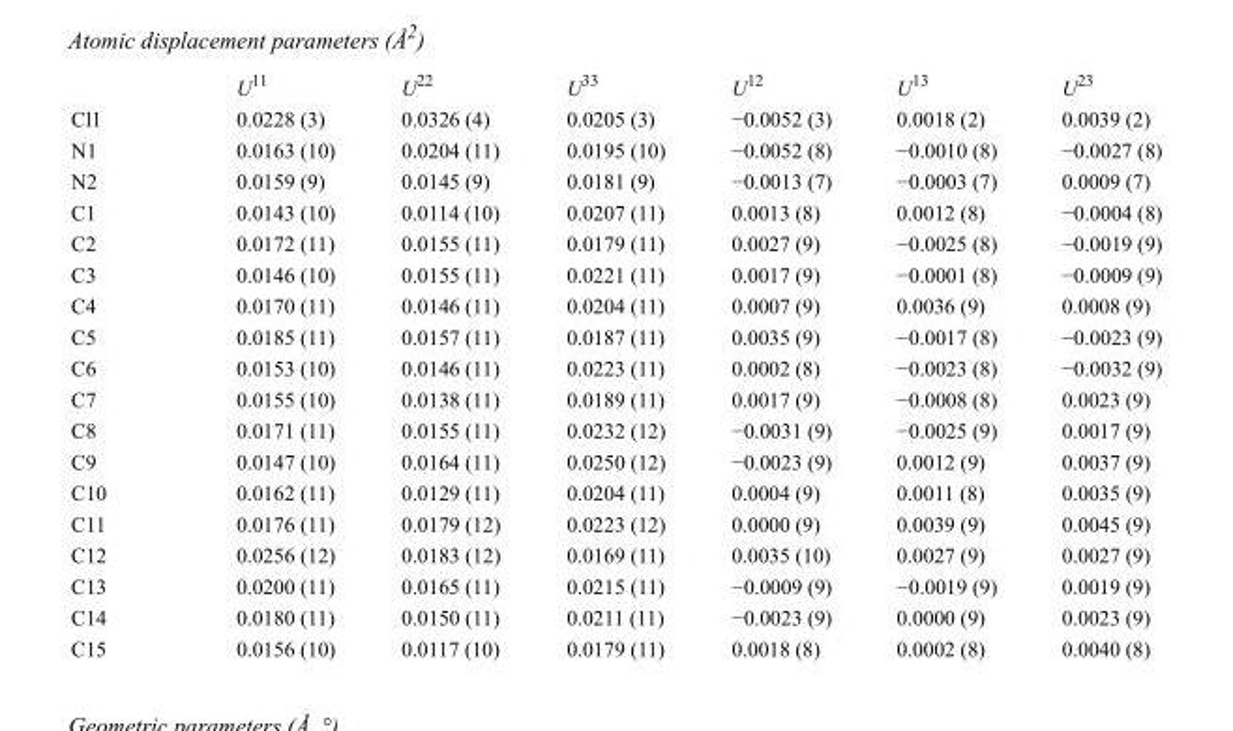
<table><thead><tr><td></td><td>U<sup>11</sup></td><td>U<sup>22</sup></td><td>U<sup>33</sup></td><td>U<sup>12</sup></td><td>U<sup>13</sup></td><td>U<sup>23</sup></td></tr></thead><tbody><tr><td>Cl1</td><td>0.0228 (3)</td><td>0.0326 (4)</td><td>0.0205 (3)</td><td>−0.0052 (3)</td><td>0.0018 (2)</td><td>0.0039 (2)</td></tr><tr><td>N1</td><td>0.0163 (10)</td><td>0.0204 (11)</td><td>0.0195 (10)</td><td>−0.0052 (8)</td><td>−0.0010 (8)</td><td>−0.0027 (8)</td></tr><tr><td>N2</td><td>0.0159 (9)</td><td>0.0145 (9)</td><td>0.0181 (9)</td><td>−0.0013 (7)</td><td>−0.0003 (7)</td><td>0.0009 (7)</td></tr><tr><td>C1</td><td>0.0143 (10)</td><td>0.0114 (10)</td><td>0.0207 (11)</td><td>0.0013 (8)</td><td>0.0012 (8)</td><td>−0.0004 (8)</td></tr><tr><td>C2</td><td>0.0172 (11)</td><td>0.0155 (11)</td><td>0.0179 (11)</td><td>0.0027 (9)</td><td>−0.0025 (8)</td><td>−0.0019 (9)</td></tr><tr><td>C3</td><td>0.0146 (10)</td><td>0.0155 (11)</td><td>0.0221 (11)</td><td>0.0017 (9)</td><td>−0.0001 (8)</td><td>−0.0009 (9)</td></tr><tr><td>C4</td><td>0.0170 (11)</td><td>0.0146 (11)</td><td>0.0204 (11)</td><td>0.0007 (9)</td><td>0.0036 (9)</td><td>0.0008 (9)</td></tr><tr><td>C5</td><td>0.0185 (11)</td><td>0.0157 (11)</td><td>0.0187 (11)</td><td>0.0035 (9)</td><td>−0.0017 (8)</td><td>−0.0023 (9)</td></tr><tr><td>C6</td><td>0.0153 (10)</td><td>0.0146 (11)</td><td>0.0223 (11)</td><td>0.0002 (8)</td><td>−0.0023 (8)</td><td>−0.0032 (9)</td></tr><tr><td>C7</td><td>0.0155 (10)</td><td>0.0138 (11)</td><td>0.0189 (11)</td><td>0.0017 (9)</td><td>−0.0008 (8)</td><td>0.0023 (9)</td></tr><tr><td>C8</td><td>0.0171 (11)</td><td>0.0155 (11)</td><td>0.0232 (12)</td><td>−0.0031 (9)</td><td>−0.0025 (9)</td><td>0.0017 (9)</td></tr><tr><td>C9</td><td>0.0147 (10)</td><td>0.0164 (11)</td><td>0.0250 (12)</td><td>−0.0023 (9)</td><td>0.0012 (9)</td><td>0.0037 (9)</td></tr><tr><td>C10</td><td>0.0162 (11)</td><td>0.0129 (11)</td><td>0.0204 (11)</td><td>0.0004 (9)</td><td>0.0011 (8)</td><td>0.0035 (9)</td></tr><tr><td>C11</td><td>0.0176 (11)</td><td>0.0179 (12)</td><td>0.0223 (12)</td><td>0.0000 (9)</td><td>0.0039 (9)</td><td>0.0045 (9)</td></tr><tr><td>C12</td><td>0.0256 (12)</td><td>0.0183 (12)</td><td>0.0169 (11)</td><td>0.0035 (10)</td><td>0.0027 (9)</td><td>0.0027 (9)</td></tr><tr><td>C13</td><td>0.0200 (11)</td><td>0.0165 (11)</td><td>0.0215 (11)</td><td>−0.0009 (9)</td><td>−0.0019 (9)</td><td>0.0019 (9)</td></tr><tr><td>C14</td><td>0.0180 (11)</td><td>0.0150 (11)</td><td>0.0211 (11)</td><td>−0.0023 (9)</td><td>0.0000 (9)</td><td>0.0023 (9)</td></tr><tr><td>C15</td><td>0.0156 (10)</td><td>0.0117 (10)</td><td>0.0179 (11)</td><td>0.0018 (8)</td><td>0.0002 (8)</td><td>0.0040 (8)</td></tr></tbody></table>